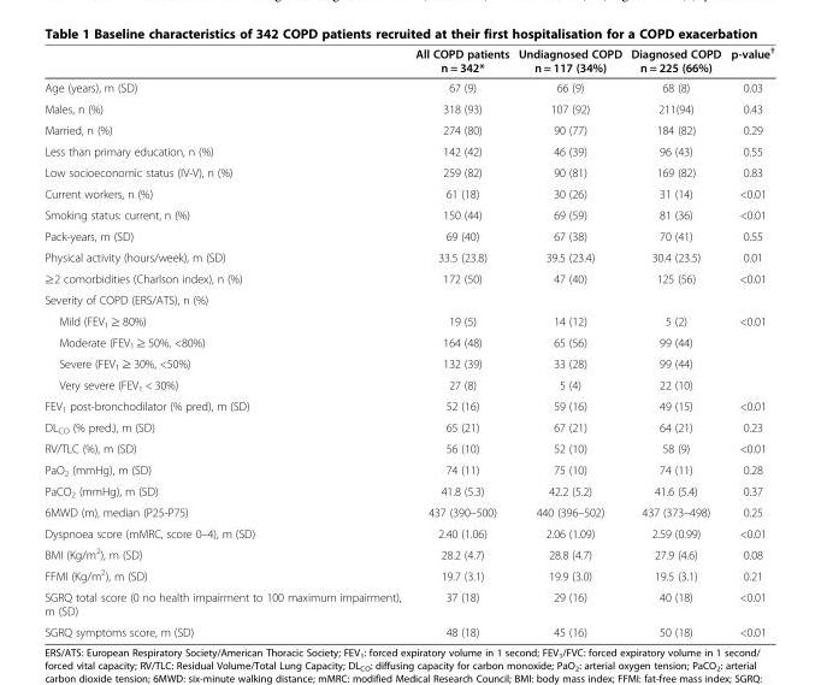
<table><thead><tr><td></td><td>All COPD patients n = 342*</td><td>Undiagnosed COPD n = 117 (34%)</td><td>Diagnosed COPD n = 225 (66%)</td><td>p-value<sup>†</sup></td></tr></thead><tbody><tr><td>Age (years), m (SD)</td><td>67 (9)</td><td>66 (9)</td><td>68 (8)</td><td>0.03</td></tr><tr><td>Males, n (%)</td><td>318 (93)</td><td>107 (92)</td><td>211(94)</td><td>0.43</td></tr><tr><td>Married, n (%)</td><td>274 (80)</td><td>90 (77)</td><td>184 (82)</td><td>0.29</td></tr><tr><td>Less than primary education, n (%)</td><td>142 (42)</td><td>46 (39)</td><td>96 (43)</td><td>0.55</td></tr><tr><td>Low socioeconomic status (IV-V), n (%)</td><td>259 (82)</td><td>90 (81)</td><td>169 (82)</td><td>0.83</td></tr><tr><td>Current workers, n (%)</td><td>61 (18)</td><td>30 (26)</td><td>31 (14)</td><td>&lt;0.01</td></tr><tr><td>Smoking status: current, n (%)</td><td>150 (44)</td><td>69 (59)</td><td>81 (36)</td><td>&lt;0.01</td></tr><tr><td>Pack-years, m (SD)</td><td>69 (40)</td><td>67 (38)</td><td>70 (41)</td><td>0.55</td></tr><tr><td>Physical activity (hours/week), m (SD)</td><td>33.5 (23.8)</td><td>39.5 (23.4)</td><td>30.4 (23.5)</td><td>0.01</td></tr><tr><td>≥2 comorbidities (Charlson index), n (%)</td><td>172 (50)</td><td>47 (40)</td><td>125 (56)</td><td>&lt;0.01</td></tr><tr><td colspan="5">Severity of COPD (ERS/ATS), n (%)</td></tr><tr><td>Mild (FEV<sub>1</sub> ≥ 80%)</td><td>19 (5)</td><td>14 (12)</td><td>5 (2)</td><td>&lt;0.01</td></tr><tr><td>Moderate (FEV<sub>1</sub> ≥ 50%, &lt;80%)</td><td>164 (48)</td><td>65 (56)</td><td>99 (44)</td><td></td></tr><tr><td>Severe (FEV<sub>1</sub> ≥ 30%, &lt;50%)</td><td>132 (39)</td><td>33 (28)</td><td>99 (44)</td><td></td></tr><tr><td>Very severe (FEV<sub>1</sub> &lt; 30%)</td><td>27 (8)</td><td>5 (4)</td><td>22 (10)</td><td></td></tr><tr><td>FEV<sub>1</sub> post-bronchodilator (% pred), m (SD)</td><td>52 (16)</td><td>59 (16)</td><td>49 (15)</td><td>&lt;0.01</td></tr><tr><td>DL<sub>CO</sub> (% pred.), m (SD)</td><td>65 (21)</td><td>67 (21)</td><td>64 (21)</td><td>0.23</td></tr><tr><td>RV/TLC (%), m (SD)</td><td>56 (10)</td><td>52 (10)</td><td>58 (9)</td><td>&lt;0.01</td></tr><tr><td>PaO<sub>2</sub> (mmHg), m (SD)</td><td>74 (11)</td><td>75 (10)</td><td>74 (11)</td><td>0.28</td></tr><tr><td>PaCO<sub>2</sub> (mmHg), m (SD)</td><td>41.8 (5.3)</td><td>42.2 (5.2)</td><td>41.6 (5.4)</td><td>0.37</td></tr><tr><td>6MWD (m), median (P25-P75)</td><td>437 (390–500)</td><td>440 (396–502)</td><td>437 (373–498)</td><td>0.25</td></tr><tr><td>Dyspnoea score (mMRC, score 0–4), m (SD)</td><td>2.40 (1.06)</td><td>2.06 (1.09)</td><td>2.59 (0.99)</td><td>&lt;0.01</td></tr><tr><td>BMI (Kg/m<sup>2</sup>), m (SD)</td><td>28.2 (4.7)</td><td>28.8 (4.7)</td><td>27.9 (4.6)</td><td>0.08</td></tr><tr><td>FFMI (Kg/m<sup>2</sup>), m (SD)</td><td>19.7 (3.1)</td><td>19.9 (3.0)</td><td>19.5 (3.1)</td><td>0.21</td></tr><tr><td>SGRQ total score (0 no health impairment to 100 maximum impairment), m (SD)</td><td>37 (18)</td><td>29 (16)</td><td>40 (18)</td><td>&lt;0.01</td></tr><tr><td>SGRQ symptoms score, m (SD)</td><td>48 (18)</td><td>45 (16)</td><td>50 (18)</td><td>&lt;0.01</td></tr></tbody></table>